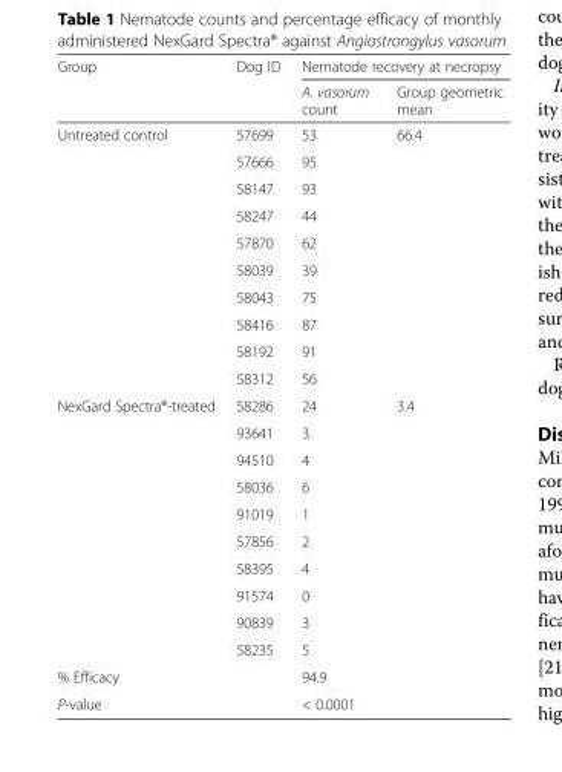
<table><thead><tr><td rowspan="2">Group</td><td rowspan="2">Dog ID</td><td colspan="2">Nematode recovery at necropsy</td></tr><tr><td>A. vasorum count</td><td>Group geometric mean</td></tr></thead><tbody><tr><td rowspan="10">Untreated control</td><td>57699</td><td>53</td><td>66.4</td></tr><tr><td>57666</td><td>95</td><td></td></tr><tr><td>58147</td><td>93</td><td></td></tr><tr><td>58247</td><td>44</td><td></td></tr><tr><td>57870</td><td>62</td><td></td></tr><tr><td>58039</td><td>39</td><td></td></tr><tr><td>58043</td><td>75</td><td></td></tr><tr><td>58416</td><td>87</td><td></td></tr><tr><td>58192</td><td>91</td><td></td></tr><tr><td>58312</td><td>56</td><td></td></tr><tr><td rowspan="10">NexGard Spectra®-treated</td><td>58286</td><td>24</td><td>3.4</td></tr><tr><td>93641</td><td>3</td><td></td></tr><tr><td>94510</td><td>4</td><td></td></tr><tr><td>58036</td><td>6</td><td></td></tr><tr><td>91019</td><td>1</td><td></td></tr><tr><td>57856</td><td>2</td><td></td></tr><tr><td>58395</td><td>4</td><td></td></tr><tr><td>91574</td><td>0</td><td></td></tr><tr><td>90839</td><td>3</td><td></td></tr><tr><td>58235</td><td>5</td><td></td></tr><tr><td colspan="2">% Efficacy</td><td colspan="2">94.9</td></tr><tr><td colspan="2">P-value</td><td colspan="2">&lt; 0.0001</td></tr></tbody></table>